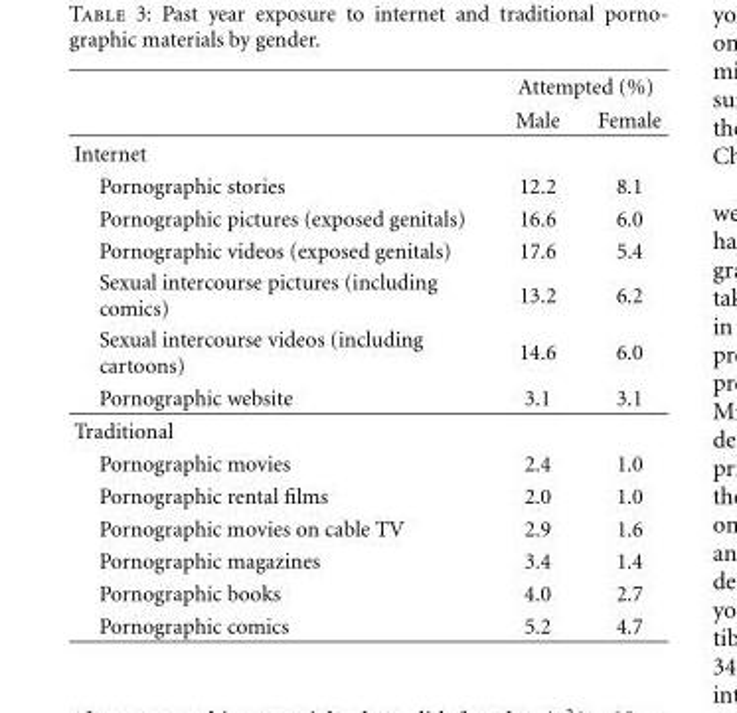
<table><thead><tr><td rowspan="2"></td><td colspan="2">Attempted (%)</td></tr><tr><td>Male</td><td>Female</td></tr></thead><tbody><tr><td colspan="3">Internet</td></tr><tr><td>Pornographic stories</td><td>12.2</td><td>8.1</td></tr><tr><td>Pornographic pictures (exposed genitals)</td><td>16.6</td><td>6.0</td></tr><tr><td>Pornographic videos (exposed genitals)</td><td>17.6</td><td>5.4</td></tr><tr><td>Sexual intercourse pictures (including comics)</td><td>13.2</td><td>6.2</td></tr><tr><td>Sexual intercourse videos (including cartoons)</td><td>14.6</td><td>6.0</td></tr><tr><td>Pornographic website</td><td>3.1</td><td>3.1</td></tr><tr><td colspan="3">Traditional</td></tr><tr><td>Pornographic movies</td><td>2.4</td><td>1.0</td></tr><tr><td>Pornographic rental films</td><td>2.0</td><td>1.0</td></tr><tr><td>Pornographic movies on cable TV</td><td>2.9</td><td>1.6</td></tr><tr><td>Pornographic magazines</td><td>3.4</td><td>1.4</td></tr><tr><td>Pornographic books</td><td>4.0</td><td>2.7</td></tr><tr><td>Pornographic comics</td><td>5.2</td><td>4.7</td></tr></tbody></table>